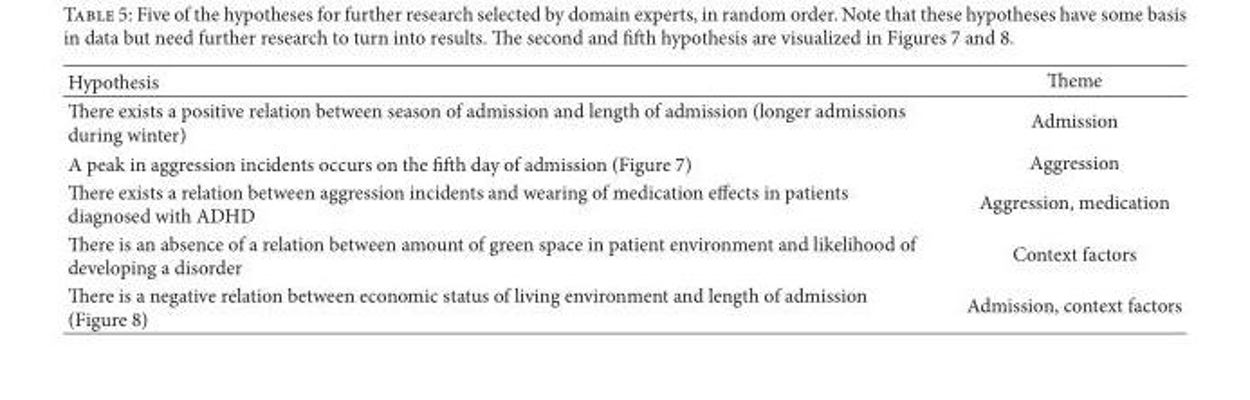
<table><thead><tr><td>Hypothesis</td><td>Theme</td></tr></thead><tbody><tr><td>There exists a positive relation between season of admission and length of admission (longer admissions during winter)</td><td>Admission</td></tr><tr><td>A peak in aggression incidents occurs on the fifth day of admission (Figure 7)</td><td>Aggression</td></tr><tr><td>There exists a relation between aggression incidents and wearing of medication effects in patients diagnosed with ADHD</td><td>Aggression, medication</td></tr><tr><td>There is an absence of a relation between amount of green space in patient environment and likelihood of developing a disorder</td><td>Context factors</td></tr><tr><td>There is a negative relation between economic status of living environment and length of admission (Figure 8)</td><td>Admission, context factors</td></tr></tbody></table>